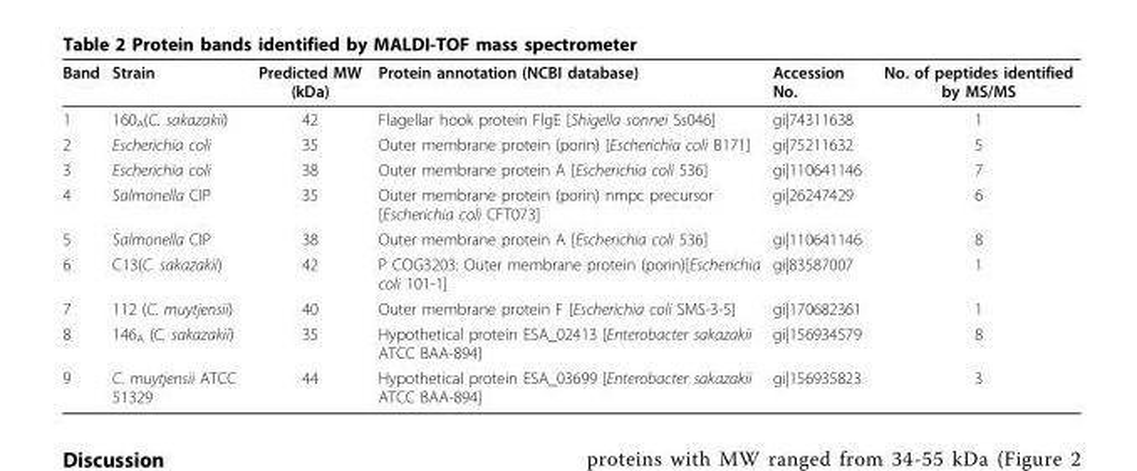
<table><thead><tr><td>Band</td><td>Strain</td><td>Predicted MW (kDa)</td><td>Protein annotation (NCBI database)</td><td>Accession No.</td><td>No. of peptides identified by MS/MS</td></tr></thead><tbody><tr><td>1</td><td>160<sub>A</sub>(C. sakazakii)</td><td>42</td><td>Flagellar hook protein FlgE [Shigella sonnei Ss046]</td><td>gi|74311638</td><td>1</td></tr><tr><td>2</td><td>Escherichia coli</td><td>35</td><td>Outer membrane protein (porin) [Escherichia coli B171]</td><td>gi|75211632</td><td>5</td></tr><tr><td>3</td><td>Escherichia coli</td><td>38</td><td>Outer membrane protein A [Escherichia coli 536]</td><td>gi|110641146</td><td>7</td></tr><tr><td>4</td><td>Salmonella CIP</td><td>35</td><td>Outer membrane protein (porin) nmpc precursor [Escherichia coli CFT073]</td><td>gi|26247429</td><td>6</td></tr><tr><td>5</td><td>Salmonella CIP</td><td>38</td><td>Outer membrane protein A [Escherichia coli 536]</td><td>gi|110641146</td><td>8</td></tr><tr><td>6</td><td>C13(C. sakazakii)</td><td>42</td><td>P COG3203: Outer membrane protein (porin)[Escherichia coli 101-1]</td><td>gi|83587007</td><td>1</td></tr><tr><td>7</td><td>112 (C. muytjensii)</td><td>40</td><td>Outer membrane protein F [Escherichia coli SMS-3-5]</td><td>gi|170682361</td><td>1</td></tr><tr><td>8</td><td>146<sub>A</sub> (C. sakazakii)</td><td>35</td><td>Hypothetical protein ESA_02413 [Enterobacter sakazakii ATCC BAA-894]</td><td>gi|156934579</td><td>8</td></tr><tr><td>9</td><td>C. muytjensii ATCC 51329</td><td>44</td><td>Hypothetical protein ESA_03699 [Enterobacter sakazakii ATCC BAA-894]</td><td>gi|156935823</td><td>3</td></tr></tbody></table>